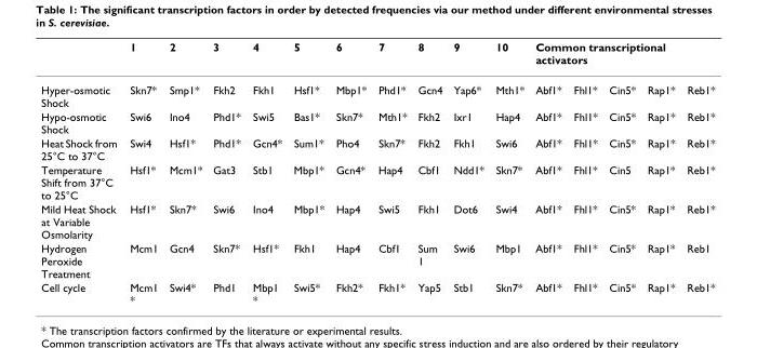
<table><thead><tr><td rowspan="2">Hyper-osmotic Shock</td><td rowspan="2">1 Skn7*</td><td rowspan="2">2 Smp1*</td><td rowspan="2">3 Fkh2</td><td rowspan="2">4 Fkh1</td><td rowspan="2">5 Hsf1*</td><td rowspan="2">6 Mbp1*</td><td rowspan="2">7 Phd1*</td><td rowspan="2">8 Gcn4</td><td rowspan="2">9 Yap6*</td><td rowspan="2">10 Mth1*</td><td colspan="5">Common transcriptional activators</td></tr><tr><td>Abf1*</td><td>Fhl1*</td><td>Cin5*</td><td>Rap1*</td><td>Reb1*</td></tr></thead><tbody><tr><td>Hypo-osmotic Shock</td><td>Swi6</td><td>Ino4</td><td>Phd1*</td><td>Swi5</td><td>Bas1*</td><td>Skn7*</td><td>Mth1*</td><td>Fkh2</td><td>Ixr1</td><td>Hap4</td><td>Abf1*</td><td>Fhl1*</td><td>Cin5*</td><td>Rap1*</td><td>Reb1*</td></tr><tr><td>Heat Shock from 25°C to 37°C</td><td>Swi4</td><td>Hsf1*</td><td>Phd1*</td><td>Gcn4*</td><td>Sum1*</td><td>Pho4</td><td>Skn7*</td><td>Fkh2</td><td>Fkh1</td><td>Swi6</td><td>Abf1*</td><td>Fhl1*</td><td>Cin5*</td><td>Rap1*</td><td>Reb1*</td></tr><tr><td>Temperature Shift from 37°C to 25°C</td><td>Hsf1*</td><td>Mcm1*</td><td>Gat3</td><td>Stb1</td><td>Mbp1*</td><td>Gcn4*</td><td>Hap4</td><td>Cbf1</td><td>Ndd1*</td><td>Skn7*</td><td>Abf1*</td><td>Fhl1*</td><td>Cin5</td><td>Rap1*</td><td>Reb1*</td></tr><tr><td>Mild Heat Shock at Variable Osmolarity</td><td>Hsf1*</td><td>Skn7*</td><td>Swi6</td><td>Ino4</td><td>Mbp1*</td><td>Hap4</td><td>Swi5</td><td>Fkh1</td><td>Dot6</td><td>Swi4</td><td>Abf1*</td><td>Fhl1*</td><td>Cin5*</td><td>Rap1*</td><td>Reb1*</td></tr><tr><td>Hydrogen Peroxide Treatment</td><td>Mcm1</td><td>Gcn4</td><td>Skn7*</td><td>Hsf1*</td><td>Fkh1</td><td>Hap4</td><td>Cbf1</td><td>Sum 1</td><td>Swi6</td><td>Mbp1</td><td>Abf1*</td><td>Fhl1*</td><td>Cin5*</td><td>Rap1*</td><td>Reb1</td></tr><tr><td>Cell cycle</td><td>Mcm1 *</td><td>Swi4*</td><td>Phd1</td><td>Mbp1 *</td><td>Swi5*</td><td>Fkh2*</td><td>Fkh1*</td><td>Yap5</td><td>Stb1</td><td>Skn7*</td><td>Abf1*</td><td>Fhl1*</td><td>Cin5*</td><td>Rap1*</td><td>Reb1*</td></tr></tbody></table>